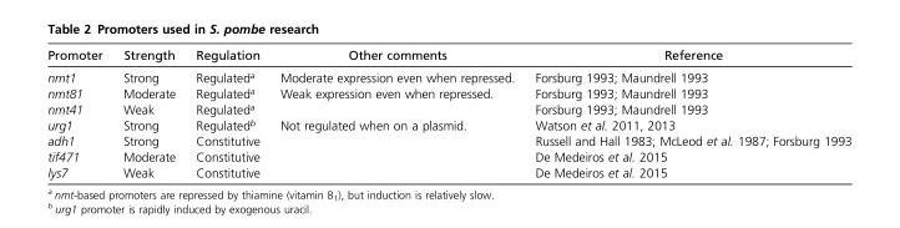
<table><thead><tr><td>Promoter</td><td>Strength</td><td>Regulation</td><td>Other comments</td><td>Reference</td></tr></thead><tbody><tr><td>nmt1</td><td>Strong</td><td>Regulated<sup>a</sup></td><td>Moderate expression even when repressed.</td><td>Forsburg 1993; Maundrell 1993</td></tr><tr><td>nmt81</td><td>Moderate</td><td>Regulated<sup>a</sup></td><td>Weak expression even when repressed.</td><td>Forsburg 1993; Maundrell 1993</td></tr><tr><td>nmt41</td><td>Weak</td><td>Regulated<sup>a</sup></td><td></td><td>Forsburg 1993; Maundrell 1993</td></tr><tr><td>urg1</td><td>Strong</td><td>Regulated<sup>b</sup></td><td>Not regulated when on a plasmid.</td><td>Watson et al. 2011, 2013</td></tr><tr><td>adh1</td><td>Strong</td><td>Constitutive</td><td></td><td>Russell and Hall 1983; McLeod et al. 1987; Forsburg 1993</td></tr><tr><td>tif471</td><td>Moderate</td><td>Constitutive</td><td></td><td>De Medeiros et al. 2015</td></tr><tr><td>lys7</td><td>Weak</td><td>Constitutive</td><td></td><td>De Medeiros et al. 2015</td></tr></tbody></table>